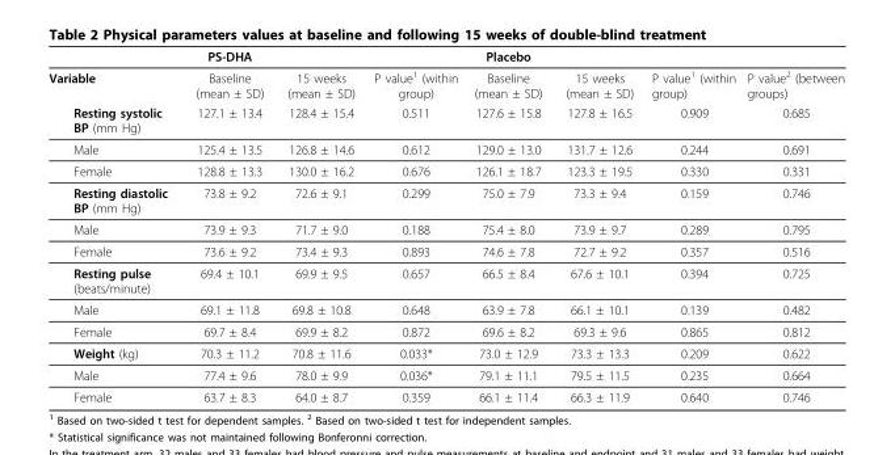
<table><thead><tr><td></td><td>PS-DHA</td><td></td><td></td><td>Placebo</td><td></td><td></td><td></td></tr></thead><tbody><tr><td>Variable</td><td>Baseline (mean ± SD)</td><td>15 weeks (mean ± SD)</td><td>P value<sup>1</sup> (within group)</td><td>Baseline (mean ± SD)</td><td>15 weeks (mean ± SD)</td><td>P value<sup>1</sup> (within group)</td><td>P value<sup>2</sup> (between groups)</td></tr><tr><td>Resting systolic BP (mm Hg)</td><td>127.1 ± 13.4</td><td>128.4 ± 15.4</td><td>0.511</td><td>127.6 ± 15.8</td><td>127.8 ± 16.5</td><td>0.909</td><td>0.685</td></tr><tr><td>Male</td><td>125.4 ± 13.5</td><td>126.8 ± 14.6</td><td>0.612</td><td>129.0 ± 13.0</td><td>131.7 ± 12.6</td><td>0.244</td><td>0.691</td></tr><tr><td>Female</td><td>128.8 ± 13.3</td><td>130.0 ± 16.2</td><td>0.676</td><td>126.1 ± 18.7</td><td>123.3 ± 19.5</td><td>0.330</td><td>0.331</td></tr><tr><td>Resting diastolic BP (mm Hg)</td><td>73.8 ± 9.2</td><td>72.6 ± 9.1</td><td>0.299</td><td>75.0 ± 7.9</td><td>73.3 ± 9.4</td><td>0.159</td><td>0.746</td></tr><tr><td>Male</td><td>73.9 ± 9.3</td><td>71.7 ± 9.0</td><td>0.188</td><td>75.4 ± 8.0</td><td>73.9 ± 9.7</td><td>0.289</td><td>0.795</td></tr><tr><td>Female</td><td>73.6 ± 9.2</td><td>73.4 ± 9.3</td><td>0.893</td><td>74.6 ± 7.8</td><td>72.7 ± 9.2</td><td>0.357</td><td>0.516</td></tr><tr><td>Resting pulse (beats/minute)</td><td>69.4 ± 10.1</td><td>69.9 ± 9.5</td><td>0.657</td><td>66.5 ± 8.4</td><td>67.6 ± 10.1</td><td>0.394</td><td>0.725</td></tr><tr><td>Male</td><td>69.1 ± 11.8</td><td>69.8 ± 10.8</td><td>0.648</td><td>63.9 ± 7.8</td><td>66.1 ± 10.1</td><td>0.139</td><td>0.482</td></tr><tr><td>Female</td><td>69.7 ± 8.4</td><td>69.9 ± 8.2</td><td>0.872</td><td>69.6 ± 8.2</td><td>69.3 ± 9.6</td><td>0.865</td><td>0.812</td></tr><tr><td>Weight (kg)</td><td>70.3 ± 11.2</td><td>70.8 ± 11.6</td><td>0.033*</td><td>73.0 ± 12.9</td><td>73.3 ± 13.3</td><td>0.209</td><td>0.622</td></tr><tr><td>Male</td><td>77.4 ± 9.6</td><td>78.0 ± 9.9</td><td>0.036*</td><td>79.1 ± 11.1</td><td>79.5 ± 11.5</td><td>0.235</td><td>0.664</td></tr><tr><td>Female</td><td>63.7 ± 8.3</td><td>64.0 ± 8.7</td><td>0.359</td><td>66.1 ± 11.4</td><td>66.3 ± 11.9</td><td>0.640</td><td>0.746</td></tr></tbody></table>